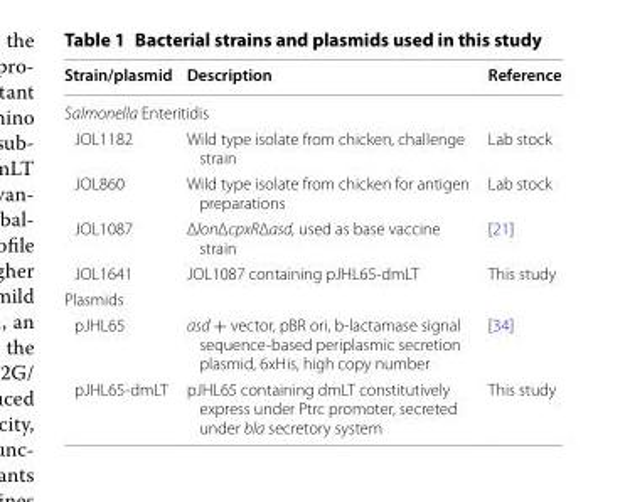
<table><thead><tr><td>Strain/plasmid</td><td>Description</td><td>Reference</td></tr></thead><tbody><tr><td colspan="3">Salmonella Enteritidis</td></tr><tr><td>JOL1182</td><td>Wild type isolate from chicken, challenge strain</td><td>Lab stock</td></tr><tr><td>JOL860</td><td>Wild type isolate from chicken for antigen preparations</td><td>Lab stock</td></tr><tr><td>JOL1087</td><td>ΔlonΔcpxRΔasd, used as base vaccine strain</td><td>[21]</td></tr><tr><td>JOL1641</td><td>JOL1087 containing pJHL65-dmLT</td><td>This study</td></tr><tr><td colspan="3">Plasmids</td></tr><tr><td>pJHL65</td><td>asd + vector, pBR ori, b-lactamase signal sequence-based periplasmic secretion plasmid, 6xHis, high copy number</td><td>[34]</td></tr><tr><td>pJHL65-dmLT</td><td>pJHL65 containing dmLT constitutively express under Ptrc promoter, secreted under bla secretory system</td><td>This study</td></tr></tbody></table>